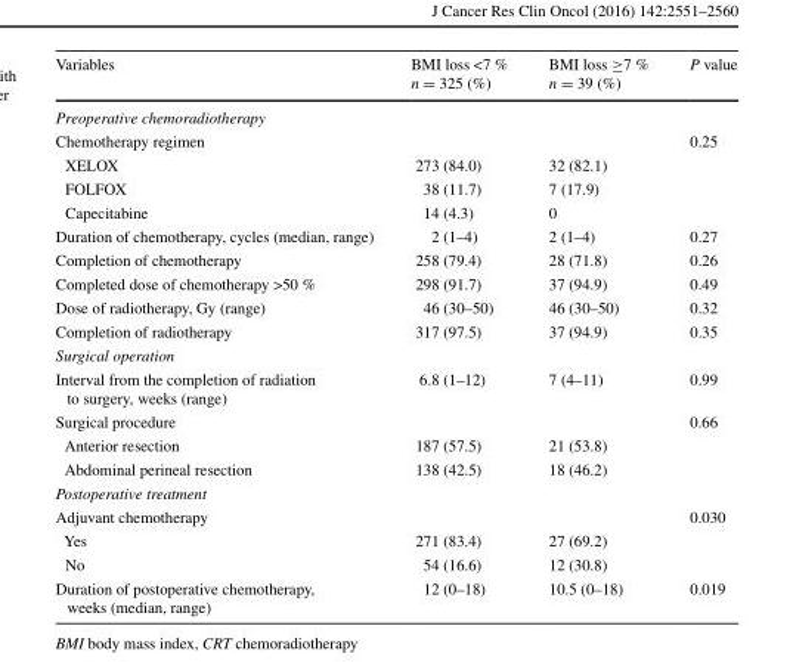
<table><thead><tr><td>Variables</td><td>BMI loss &lt;7 % n = 325 (%)</td><td>BMI loss ≥7 % n = 39 (%)</td><td>P value</td></tr></thead><tbody><tr><td colspan="4">Preoperative chemoradiotherapy</td></tr><tr><td colspan="3">Chemotherapy regimen</td><td>0.25</td></tr><tr><td>XELOX</td><td>273 (84.0)</td><td>32 (82.1)</td><td></td></tr><tr><td>FOLFOX</td><td>38 (11.7)</td><td>7 (17.9)</td><td></td></tr><tr><td>Capecitabine</td><td>14 (4.3)</td><td>0</td><td></td></tr><tr><td>Duration of chemotherapy, cycles (median, range)</td><td>2 (1–4)</td><td>2 (1–4)</td><td>0.27</td></tr><tr><td>Completion of chemotherapy</td><td>258 (79.4)</td><td>28 (71.8)</td><td>0.26</td></tr><tr><td>Completed dose of chemotherapy &gt;50 %</td><td>298 (91.7)</td><td>37 (94.9)</td><td>0.49</td></tr><tr><td>Dose of radiotherapy, Gy (range)</td><td>46 (30–50)</td><td>46 (30–50)</td><td>0.32</td></tr><tr><td>Completion of radiotherapy</td><td>317 (97.5)</td><td>37 (94.9)</td><td>0.35</td></tr><tr><td colspan="4">Surgical operation</td></tr><tr><td>Interval from the completion of radiation to surgery, weeks (range)</td><td>6.8 (1–12)</td><td>7 (4–11)</td><td>0.99</td></tr><tr><td colspan="3">Surgical procedure</td><td>0.66</td></tr><tr><td>Anterior resection</td><td>187 (57.5)</td><td>21 (53.8)</td><td></td></tr><tr><td>Abdominal perineal resection</td><td>138 (42.5)</td><td>18 (46.2)</td><td></td></tr><tr><td colspan="4">Postoperative treatment</td></tr><tr><td colspan="3">Adjuvant chemotherapy</td><td>0.030</td></tr><tr><td>Yes</td><td>271 (83.4)</td><td>27 (69.2)</td><td></td></tr><tr><td>No</td><td>54 (16.6)</td><td>12 (30.8)</td><td></td></tr><tr><td>Duration of postoperative chemotherapy, weeks (median, range)</td><td>12 (0–18)</td><td>10.5 (0–18)</td><td>0.019</td></tr></tbody></table>